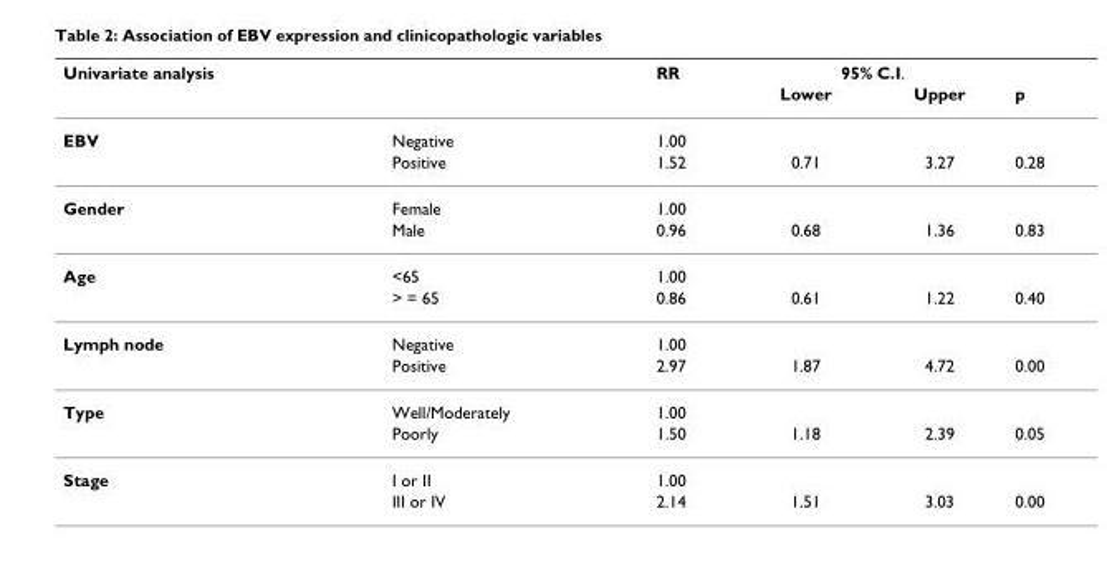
<table><thead><tr><td rowspan="2">Univariate analysis</td><td rowspan="2"></td><td rowspan="2">RR</td><td colspan="2">95% C.I.</td><td rowspan="2">p</td></tr><tr><td>Lower</td><td>Upper</td></tr></thead><tbody><tr><td rowspan="2">EBV</td><td>Negative</td><td>1.00</td><td></td><td></td><td></td></tr><tr><td>Positive</td><td>1.52</td><td>0.71</td><td>3.27</td><td>0.28</td></tr><tr><td rowspan="2">Gender</td><td>Female</td><td>1.00</td><td></td><td></td><td></td></tr><tr><td>Male</td><td>0.96</td><td>0.68</td><td>1.36</td><td>0.83</td></tr><tr><td rowspan="2">Age</td><td>&lt;65</td><td>1.00</td><td></td><td></td><td></td></tr><tr><td>&gt; = 65</td><td>0.86</td><td>0.61</td><td>1.22</td><td>0.40</td></tr><tr><td rowspan="2">Lymph node</td><td>Negative</td><td>1.00</td><td></td><td></td><td></td></tr><tr><td>Positive</td><td>2.97</td><td>1.87</td><td>4.72</td><td>0.00</td></tr><tr><td rowspan="2">Type</td><td>Well/Moderately</td><td>1.00</td><td></td><td></td><td></td></tr><tr><td>Poorly</td><td>1.50</td><td>1.18</td><td>2.39</td><td>0.05</td></tr><tr><td rowspan="2">Stage</td><td>I or II</td><td>1.00</td><td></td><td></td><td></td></tr><tr><td>III or IV</td><td>2.14</td><td>1.51</td><td>3.03</td><td>0.00</td></tr></tbody></table>